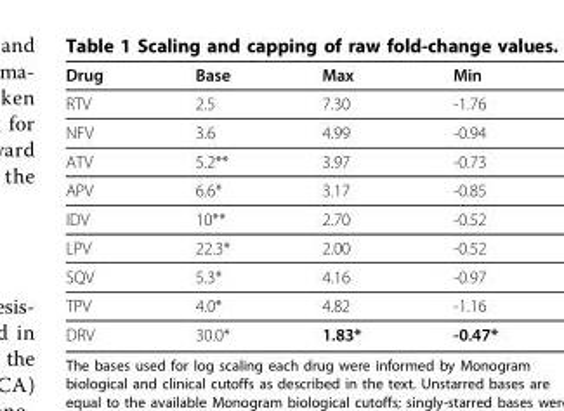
<table><thead><tr><td>Drug</td><td>Base</td><td>Max</td><td>Min</td></tr></thead><tbody><tr><td>RTV</td><td>2.5</td><td>7.30</td><td>-1.76</td></tr><tr><td>NFV</td><td>3.6</td><td>4.99</td><td>-0.94</td></tr><tr><td>ATV</td><td>5.2**</td><td>3.97</td><td>-0.73</td></tr><tr><td>APV</td><td>6.6*</td><td>3.17</td><td>-0.85</td></tr><tr><td>IDV</td><td>10**</td><td>2.70</td><td>-0.52</td></tr><tr><td>LPV</td><td>22.3*</td><td>2.00</td><td>-0.52</td></tr><tr><td>SQV</td><td>5.3*</td><td>4.16</td><td>-0.97</td></tr><tr><td>TPV</td><td>4.0*</td><td>4.82</td><td>-1.16</td></tr><tr><td>DRV</td><td>30.0*</td><td>1.83*</td><td>-0.47*</td></tr></tbody></table>